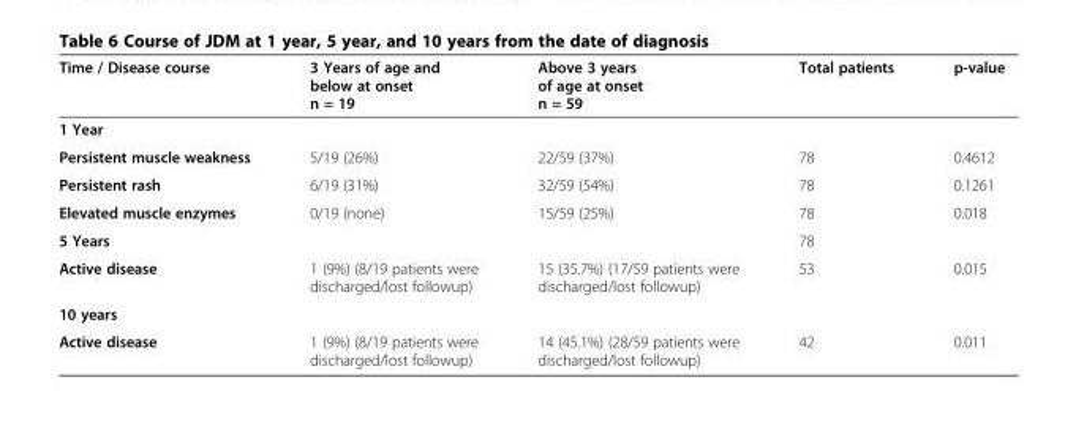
<table><thead><tr><td>Time / Disease course</td><td>3 Years of age and below at onset n = 19</td><td>Above 3 years of age at onset n = 59</td><td>Total patients</td><td>p-value</td></tr></thead><tbody><tr><td colspan="5">1 Year</td></tr><tr><td>Persistent muscle weakness</td><td>5/19 (26%)</td><td>22/59 (37%)</td><td>78</td><td>0.4612</td></tr><tr><td>Persistent rash</td><td>6/19 (31%)</td><td>32/59 (54%)</td><td>78</td><td>0.1261</td></tr><tr><td>Elevated muscle enzymes</td><td>0/19 (none)</td><td>15/59 (25%)</td><td>78</td><td>0.018</td></tr><tr><td>5 Years</td><td></td><td></td><td>78</td><td></td></tr><tr><td>Active disease</td><td>1 (9%) (8/19 patients were discharged/lost followup)</td><td>15 (35.7%) (17/59 patients were discharged/lost followup)</td><td>53</td><td>0.015</td></tr><tr><td colspan="5">10 years</td></tr><tr><td>Active disease</td><td>1 (9%) (8/19 patients were discharged/lost followup)</td><td>14 (45.1%) (28/59 patients were discharged/lost followup)</td><td>42</td><td>0.011</td></tr></tbody></table>